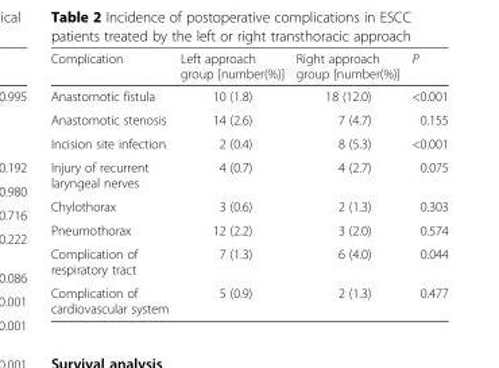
<table><thead><tr><td>Complication</td><td>Left approach group [number(%)]</td><td>Right approach group [number(%)]</td><td>P</td></tr></thead><tbody><tr><td>Anastomotic fistula</td><td>10 (1.8)</td><td>18 (12.0)</td><td>&lt;0.001</td></tr><tr><td>Anastomotic stenosis</td><td>14 (2.6)</td><td>7 (4.7)</td><td>0.155</td></tr><tr><td>Incision site infection</td><td>2 (0.4)</td><td>8 (5.3)</td><td>&lt;0.001</td></tr><tr><td>Injury of recurrent laryngeal nerves</td><td>4 (0.7)</td><td>4 (2.7)</td><td>0.075</td></tr><tr><td>Chylothorax</td><td>3 (0.6)</td><td>2 (1.3)</td><td>0.303</td></tr><tr><td>Pneumothorax</td><td>12 (2.2)</td><td>3 (2.0)</td><td>0.574</td></tr><tr><td>Complication of respiratory tract</td><td>7 (1.3)</td><td>6 (4.0)</td><td>0.044</td></tr><tr><td>Complication of cardiovascular system</td><td>5 (0.9)</td><td>2 (1.3)</td><td>0.477</td></tr></tbody></table>